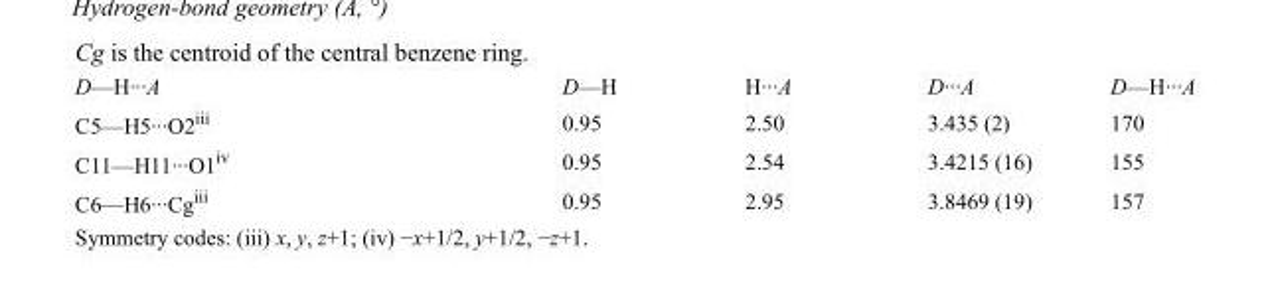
<table><tbody><tr><td>D—H···A</td><td>D—H</td><td>H···A</td><td>D···A</td><td>D—H···A</td></tr><tr><td>C5—H5···O2<sup>iii</sup></td><td>0.95</td><td>2.50</td><td>3.435 (2)</td><td>170</td></tr><tr><td>C11—H11···O1<sup>iv</sup></td><td>0.95</td><td>2.54</td><td>3.4215 (16)</td><td>155</td></tr><tr><td>C6—H6···Cg<sup>iii</sup></td><td>0.95</td><td>2.95</td><td>3.8469 (19)</td><td>157</td></tr></tbody></table>